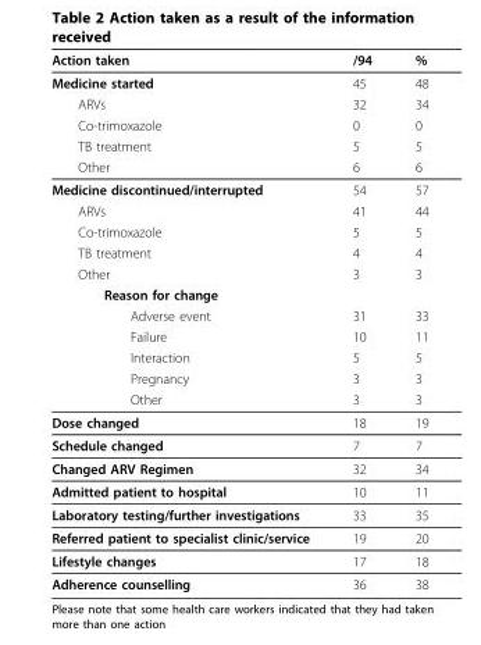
<table><thead><tr><td>Action taken</td><td>/94</td><td>%</td></tr></thead><tbody><tr><td>Medicine started</td><td>45</td><td>48</td></tr><tr><td>ARVs</td><td>32</td><td>34</td></tr><tr><td>Co-trimoxazole</td><td>0</td><td>0</td></tr><tr><td>TB treatment</td><td>5</td><td>5</td></tr><tr><td>Other</td><td>6</td><td>6</td></tr><tr><td>Medicine discontinued/interrupted</td><td>54</td><td>57</td></tr><tr><td>ARVs</td><td>41</td><td>44</td></tr><tr><td>Co-trimoxazole</td><td>5</td><td>5</td></tr><tr><td>TB treatment</td><td>4</td><td>4</td></tr><tr><td>Other</td><td>3</td><td>3</td></tr><tr><td colspan="3">Reason for change</td></tr><tr><td>Adverse event</td><td>31</td><td>33</td></tr><tr><td>Failure</td><td>10</td><td>11</td></tr><tr><td>Interaction</td><td>5</td><td>5</td></tr><tr><td>Pregnancy</td><td>3</td><td>3</td></tr><tr><td>Other</td><td>3</td><td>3</td></tr><tr><td>Dose changed</td><td>18</td><td>19</td></tr><tr><td>Schedule changed</td><td>7</td><td>7</td></tr><tr><td>Changed ARV Regimen</td><td>32</td><td>34</td></tr><tr><td>Admitted patient to hospital</td><td>10</td><td>11</td></tr><tr><td>Laboratory testing/further investigations</td><td>33</td><td>35</td></tr><tr><td>Referred patient to specialist clinic/service</td><td>19</td><td>20</td></tr><tr><td>Lifestyle changes</td><td>17</td><td>18</td></tr><tr><td>Adherence counselling</td><td>36</td><td>38</td></tr></tbody></table>